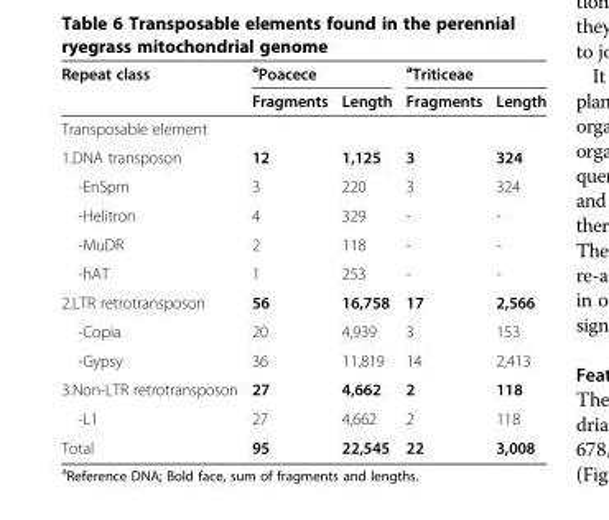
<table><thead><tr><td rowspan="2">Repeat class</td><td colspan="2"><sup>a</sup>Poacece</td><td colspan="2"><sup>a</sup>Triticeae</td></tr><tr><td>Fragments</td><td>Length</td><td>Fragments</td><td>Length</td></tr></thead><tbody><tr><td colspan="5">Transposable element</td></tr><tr><td>1.DNA transposon</td><td>12</td><td>1,125</td><td>3</td><td>324</td></tr><tr><td>-EnSpm</td><td>3</td><td>220</td><td>3</td><td>324</td></tr><tr><td>-Helitron</td><td>4</td><td>329</td><td>-</td><td>-</td></tr><tr><td>-MuDR</td><td>2</td><td>118</td><td>-</td><td>-</td></tr><tr><td>-hAT</td><td>1</td><td>253</td><td>-</td><td>-</td></tr><tr><td>2.LTR retrotransposon</td><td>56</td><td>16,758</td><td>17</td><td>2,566</td></tr><tr><td>-Copia</td><td>20</td><td>4,939</td><td>3</td><td>153</td></tr><tr><td>-Gypsy</td><td>36</td><td>11,819</td><td>14</td><td>2,413</td></tr><tr><td>3.Non-LTR retrotransposon</td><td>27</td><td>4,662</td><td>2</td><td>118</td></tr><tr><td>-L1</td><td>27</td><td>4,662</td><td>2</td><td>118</td></tr><tr><td>Total</td><td>95</td><td>22,545</td><td>22</td><td>3,008</td></tr></tbody></table>